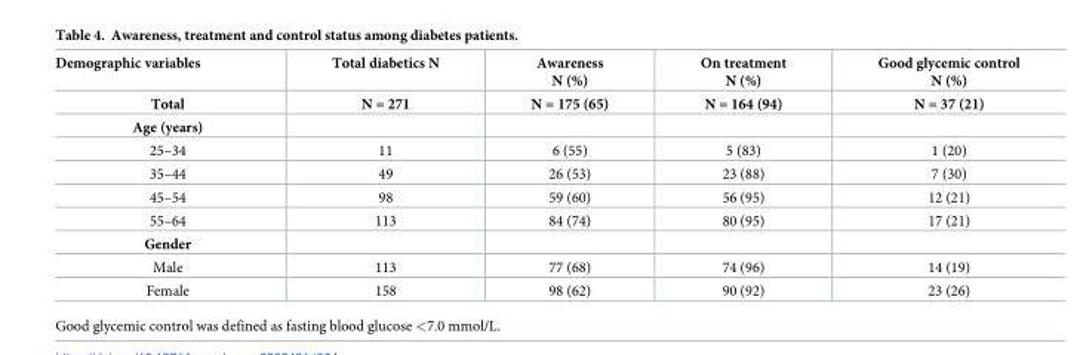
<table><thead><tr><td rowspan="2">Demographic variables Total</td><td rowspan="2">Total diabetics N N = 271</td><td rowspan="2">Awareness N (%) N = 175 (65)</td><td rowspan="2">On treatment N (%) N = 164 (94)</td><td rowspan="2">Good glycemic control N (%) N = 37 (21)</td></tr><tr></tr></thead><tbody><tr><td colspan="5">Age (years)</td></tr><tr><td>25–34</td><td>11</td><td>6 (55)</td><td>5 (83)</td><td>1 (20)</td></tr><tr><td>35–44</td><td>49</td><td>26 (53)</td><td>23 (88)</td><td>7 (30)</td></tr><tr><td>45–54</td><td>98</td><td>59 (60)</td><td>56 (95)</td><td>12 (21)</td></tr><tr><td>55–64</td><td>113</td><td>84 (74)</td><td>80 (95)</td><td>17 (21)</td></tr><tr><td colspan="5">Gender</td></tr><tr><td>Male</td><td>113</td><td>77 (68)</td><td>74 (96)</td><td>14 (19)</td></tr><tr><td>Female</td><td>158</td><td>98 (62)</td><td>90 (92)</td><td>23 (26)</td></tr></tbody></table>